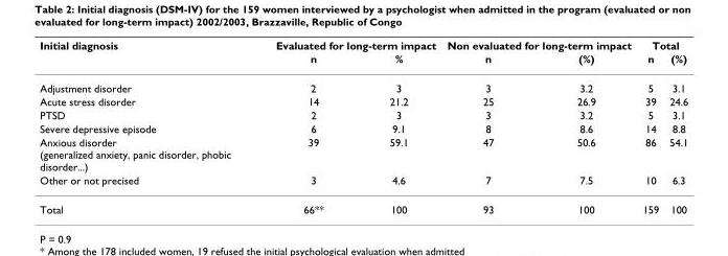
<table><thead><tr><td rowspan="2">Initial diagnosis</td><td colspan="2">Evaluated for long-term impact</td><td colspan="2">Non evaluated for long-term impact</td><td colspan="2">Total</td></tr><tr><td>n</td><td>%</td><td>n</td><td>(%)</td><td>n</td><td>(%)</td></tr></thead><tbody><tr><td>Adjustment disorder</td><td>2</td><td>3</td><td>3</td><td>3.2</td><td>5</td><td>3.1</td></tr><tr><td>Acute stress disorder</td><td>14</td><td>21.2</td><td>25</td><td>26.9</td><td>39</td><td>24.6</td></tr><tr><td>PTSD</td><td>2</td><td>3</td><td>3</td><td>3.2</td><td>5</td><td>3.1</td></tr><tr><td>Severe depressive episode</td><td>6</td><td>9.1</td><td>8</td><td>8.6</td><td>14</td><td>8.8</td></tr><tr><td>Anxious disorder (generalized anxiety, panic disorder, phobic disorder...)</td><td>39</td><td>59.1</td><td>47</td><td>50.6</td><td>86</td><td>54.1</td></tr><tr><td>Other or not precised</td><td>3</td><td>4.6</td><td>7</td><td>7.5</td><td>10</td><td>6.3</td></tr><tr><td>Total</td><td>66**</td><td>100</td><td>93</td><td>100</td><td>159</td><td>100</td></tr></tbody></table>